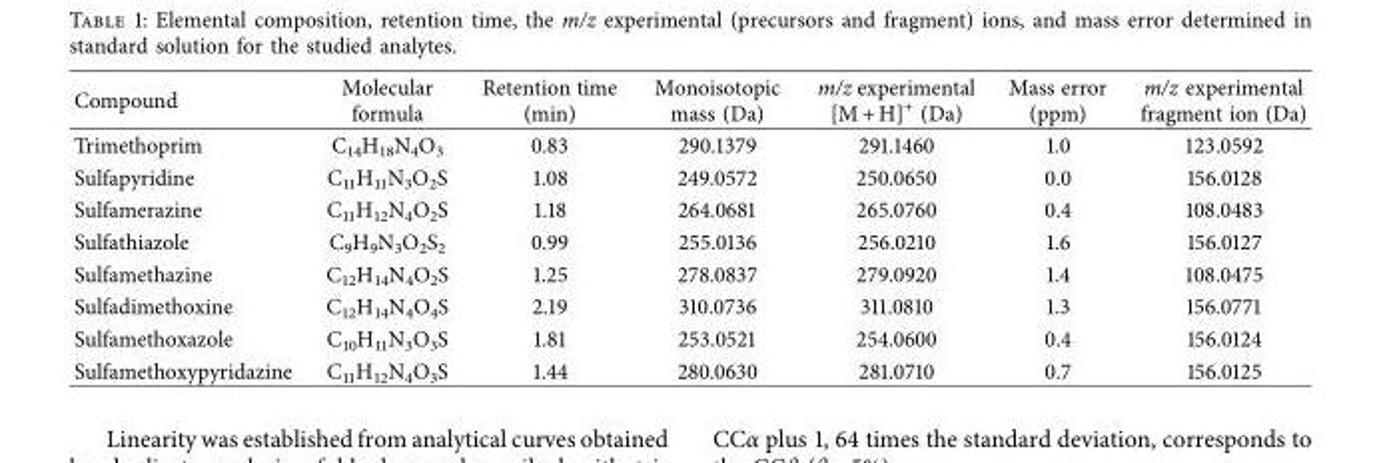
<table><thead><tr><td>Compound</td><td>Molecular formula</td><td>Retention time (min)</td><td>Monoisotopic mass (Da)</td><td>m/z experimental [M + H]<sup>+</sup> (Da)</td><td>Mass error (ppm)</td><td>m/z experimental fragment ion (Da)</td></tr></thead><tbody><tr><td>Trimethoprim</td><td>C<sub>14</sub>H<sub>18</sub>N<sub>4</sub>O<sub>3</sub></td><td>0.83</td><td>290.1379</td><td>291.1460</td><td>1.0</td><td>123.0592</td></tr><tr><td>Sulfapyridine</td><td>C<sub>11</sub>H<sub>11</sub>N<sub>3</sub>O<sub>2</sub>S</td><td>1.08</td><td>249.0572</td><td>250.0650</td><td>0.0</td><td>156.0128</td></tr><tr><td>Sulfamerazine</td><td>C<sub>11</sub>H<sub>12</sub>N<sub>4</sub>O<sub>2</sub>S</td><td>1.18</td><td>264.0681</td><td>265.0760</td><td>0.4</td><td>108.0483</td></tr><tr><td>Sulfathiazole</td><td>C<sub>9</sub>H<sub>9</sub>N<sub>3</sub>O<sub>2</sub>S<sub>2</sub></td><td>0.99</td><td>255.0136</td><td>256.0210</td><td>1.6</td><td>156.0127</td></tr><tr><td>Sulfamethazine</td><td>C<sub>12</sub>H<sub>14</sub>N<sub>4</sub>O<sub>2</sub>S</td><td>1.25</td><td>278.0837</td><td>279.0920</td><td>1.4</td><td>108.0475</td></tr><tr><td>Sulfadimethoxine</td><td>C<sub>12</sub>H<sub>14</sub>N<sub>4</sub>O<sub>4</sub>S</td><td>2.19</td><td>310.0736</td><td>311.0810</td><td>1.3</td><td>156.0771</td></tr><tr><td>Sulfamethoxazole</td><td>C<sub>10</sub>H<sub>11</sub>N<sub>3</sub>O<sub>3</sub>S</td><td>1.81</td><td>253.0521</td><td>254.0600</td><td>0.4</td><td>156.0124</td></tr><tr><td>Sulfamethoxypyridazine</td><td>C<sub>11</sub>H<sub>12</sub>N<sub>4</sub>O<sub>3</sub>S</td><td>1.44</td><td>280.0630</td><td>281.0710</td><td>0.7</td><td>156.0125</td></tr></tbody></table>